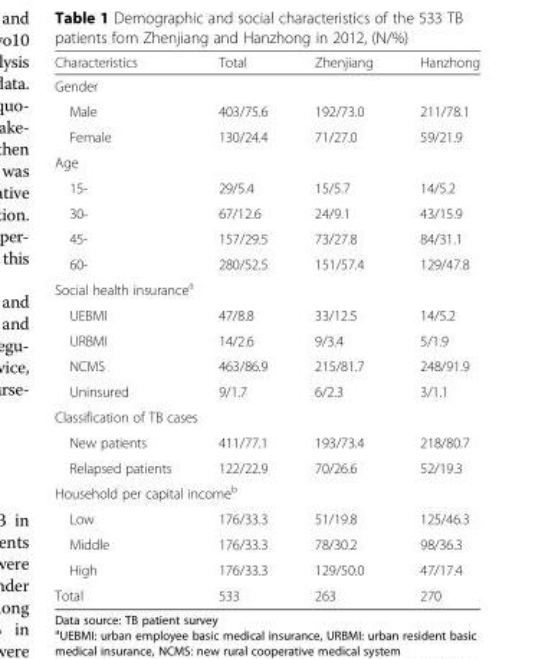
<table><thead><tr><td>Characteristics</td><td>Total</td><td>Zhenjiang</td><td>Hanzhong</td></tr></thead><tbody><tr><td colspan="4">Gender</td></tr><tr><td>Male</td><td>403/75.6</td><td>192/73.0</td><td>211/78.1</td></tr><tr><td>Female</td><td>130/24.4</td><td>71/27.0</td><td>59/21.9</td></tr><tr><td colspan="4">Age</td></tr><tr><td>15-</td><td>29/5.4</td><td>15/5.7</td><td>14/5.2</td></tr><tr><td>30-</td><td>67/12.6</td><td>24/9.1</td><td>43/15.9</td></tr><tr><td>45-</td><td>157/29.5</td><td>73/27.8</td><td>84/31.1</td></tr><tr><td>60-</td><td>280/52.5</td><td>151/57.4</td><td>129/47.8</td></tr><tr><td colspan="4">Social health insurance<sup>a</sup></td></tr><tr><td>UEBMI</td><td>47/8.8</td><td>33/12.5</td><td>14/5.2</td></tr><tr><td>URBMI</td><td>14/2.6</td><td>9/3.4</td><td>5/1.9</td></tr><tr><td>NCMS</td><td>463/86.9</td><td>215/81.7</td><td>248/91.9</td></tr><tr><td>Uninsured</td><td>9/1.7</td><td>6/2.3</td><td>3/1.1</td></tr><tr><td colspan="4">Classification of TB cases</td></tr><tr><td>New patients</td><td>411/77.1</td><td>193/73.4</td><td>218/80.7</td></tr><tr><td>Relapsed patients</td><td>122/22.9</td><td>70/26.6</td><td>52/19.3</td></tr><tr><td colspan="4">Household per capital income<sup>b</sup></td></tr><tr><td>Low</td><td>176/33.3</td><td>51/19.8</td><td>125/46.3</td></tr><tr><td>Middle</td><td>176/33.3</td><td>78/30.2</td><td>98/36.3</td></tr><tr><td>High</td><td>176/33.3</td><td>129/50.0</td><td>47/17.4</td></tr><tr><td>Total</td><td>533</td><td>263</td><td>270</td></tr></tbody></table>